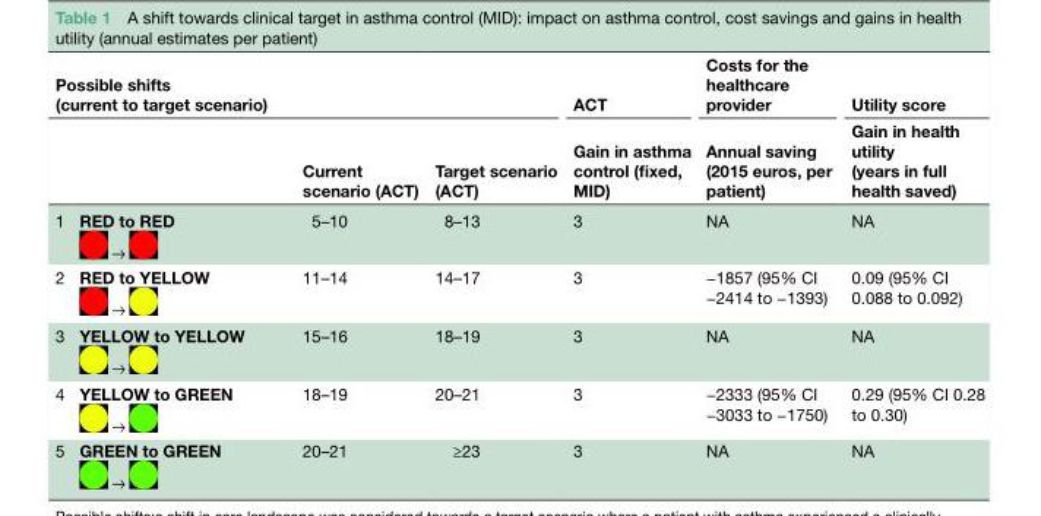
<table><thead><tr><td colspan="4">Possible shifts (current to target scenario)</td><td rowspan="2">ACT Gain in asthma control (fixed, MID)</td><td rowspan="2">Costs for the healthcare provider Annual saving (2015 euros, per patient)</td><td rowspan="2">Utility score Gain in health utility (years in full health saved)</td></tr><tr><td></td><td></td><td>Current scenario (ACT)</td><td>Target scenario (ACT)</td></tr></thead><tbody><tr><td>1</td><td>RED to RED</td><td>5–10</td><td>8–13</td><td>3</td><td>NA</td><td>NA</td></tr><tr><td>2</td><td>RED to YELLOW</td><td>11–14</td><td>14–17</td><td>3</td><td>−1857 (95% CI −2414 to −1393)</td><td>0.09 (95% CI 0.088 to 0.092)</td></tr><tr><td>3</td><td>YELLOW to YELLOW</td><td>15–16</td><td>18–19</td><td>3</td><td>NA</td><td>NA</td></tr><tr><td>4</td><td>YELLOW to GREEN</td><td>18–19</td><td>20–21</td><td>3</td><td>−2333 (95% CI −3033 to −1750)</td><td>0.29 (95% CI 0.28 to 0.30)</td></tr><tr><td>5</td><td>GREEN to GREEN</td><td>20–21</td><td>≥23</td><td>3</td><td>NA</td><td>NA</td></tr></tbody></table>